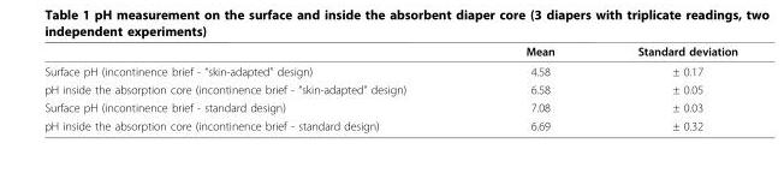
<table><thead><tr><td></td><td>Mean</td><td>Standard deviation</td></tr></thead><tbody><tr><td>Surface pH (incontinence brief - “skin-adapted” design)</td><td>4.58</td><td>± 0.17</td></tr><tr><td>pH inside the absorption core (incontinence brief - “skin-adapted” design)</td><td>6.58</td><td>± 0.05</td></tr><tr><td>Surface pH (incontinence brief - standard design)</td><td>7.08</td><td>± 0.03</td></tr><tr><td>pH inside the absorption core (incontinence brief - standard design)</td><td>6.69</td><td>± 0.32</td></tr></tbody></table>